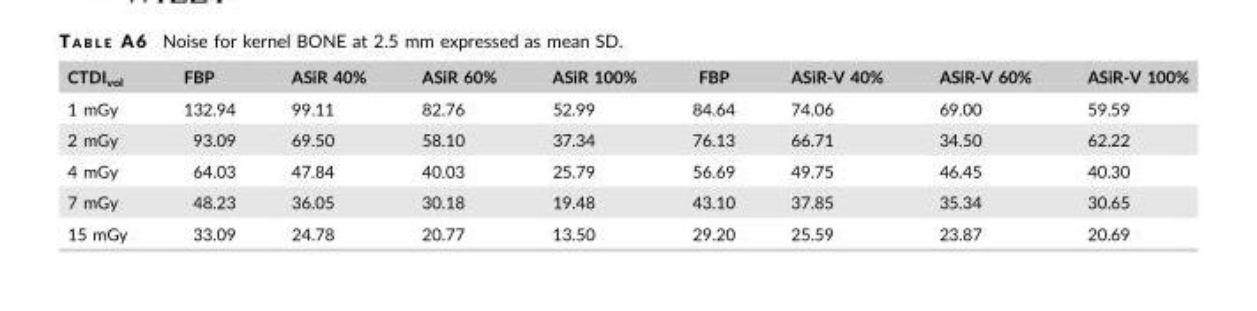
<table><thead><tr><td>CTDI<sub>vol</sub></td><td>FBP</td><td>ASiR 40%</td><td>ASiR 60%</td><td>ASiR 100%</td><td>FBP</td><td>ASiR-V 40%</td><td>ASiR-V 60%</td><td>ASiR-V 100%</td></tr></thead><tbody><tr><td>1 mGy</td><td>132.94</td><td>99.11</td><td>82.76</td><td>52.99</td><td>84.64</td><td>74.06</td><td>69.00</td><td>59.59</td></tr><tr><td>2 mGy</td><td>93.09</td><td>69.50</td><td>58.10</td><td>37.34</td><td>76.13</td><td>66.71</td><td>34.50</td><td>62.22</td></tr><tr><td>4 mGy</td><td>64.03</td><td>47.84</td><td>40.03</td><td>25.79</td><td>56.69</td><td>49.75</td><td>46.45</td><td>40.30</td></tr><tr><td>7 mGy</td><td>48.23</td><td>36.05</td><td>30.18</td><td>19.48</td><td>43.10</td><td>37.85</td><td>35.34</td><td>30.65</td></tr><tr><td>15 mGy</td><td>33.09</td><td>24.78</td><td>20.77</td><td>13.50</td><td>29.20</td><td>25.59</td><td>23.87</td><td>20.69</td></tr></tbody></table>